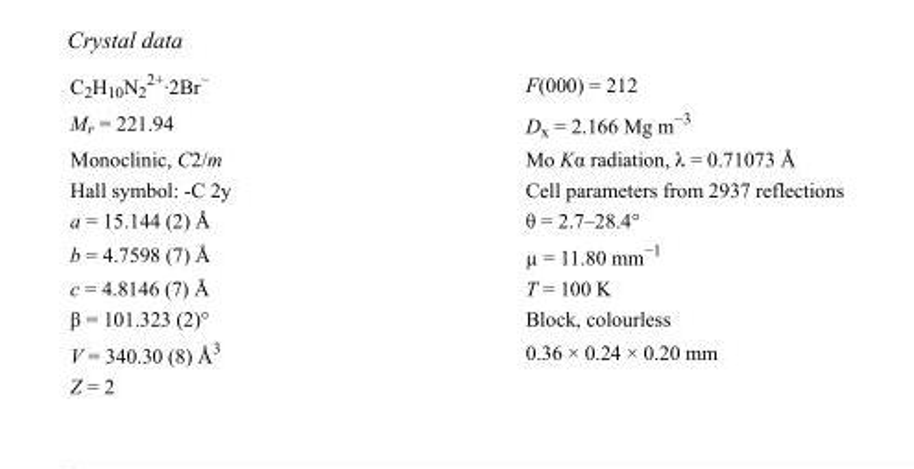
<table><tbody><tr><td>C<sub>2</sub>H<sub>10</sub>N<sub>2</sub> <sup>2+</sup>·2Br<sup>−</sup></td><td>F(000) = 212</td></tr><tr><td>M<sub>r</sub> = 221.94</td><td>D<sub>x</sub> = 2.166 Mg m<sup>−3</sup></td></tr><tr><td>Monoclinic, C2/m</td><td>Mo Kα radiation, λ = 0.71073 Å</td></tr><tr><td>Hall symbol: -C 2y</td><td>Cell parameters from 2937 reflections</td></tr><tr><td>a = 15.144 (2) Å</td><td>θ = 2.7–28.4°</td></tr><tr><td>b = 4.7598 (7) Å</td><td>µ = 11.80 mm<sup>−1</sup></td></tr><tr><td>c = 4.8146 (7) Å</td><td>T = 100 K</td></tr><tr><td>β = 101.323 (2)°</td><td>Block, colourless</td></tr><tr><td>V = 340.30 (8) Å<sup>3</sup></td><td>0.36 × 0.24 × 0.20 mm</td></tr><tr><td>Z = 2</td><td></td></tr></tbody></table>